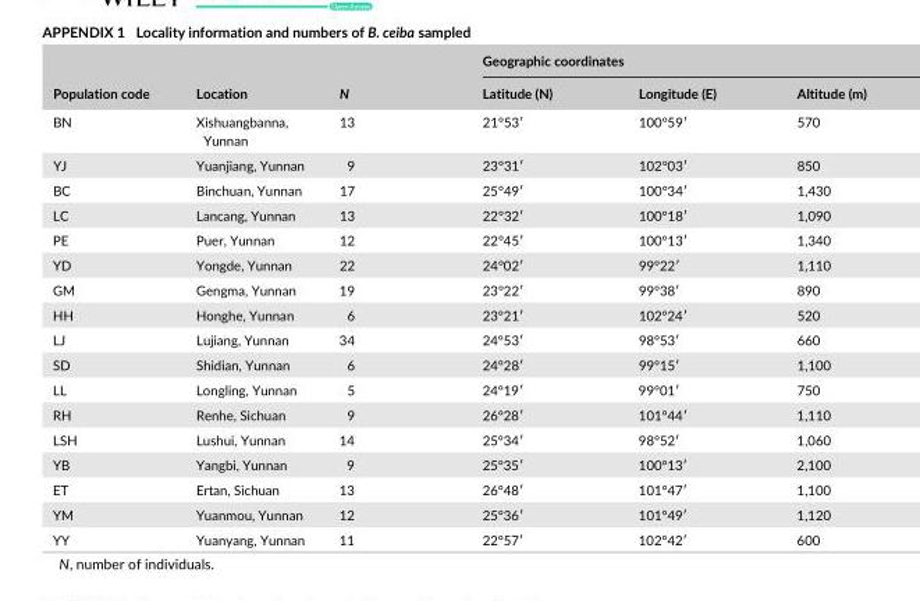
<table><thead><tr><td rowspan="2">Population code</td><td rowspan="2">Location</td><td rowspan="2">N</td><td colspan="3">Geographic coordinates</td></tr><tr><td>Latitude (N)</td><td>Longitude (E)</td><td>Altitude (m)</td></tr></thead><tbody><tr><td>BN</td><td>Xishuangbanna, Yunnan</td><td>13</td><td>21°53′</td><td>100°59′</td><td>570</td></tr><tr><td>YJ</td><td>Yuanjiang, Yunnan</td><td>9</td><td>23°31′</td><td>102°03′</td><td>850</td></tr><tr><td>BC</td><td>Binchuan, Yunnan</td><td>17</td><td>25°49′</td><td>100°34′</td><td>1,430</td></tr><tr><td>LC</td><td>Lancang, Yunnan</td><td>13</td><td>22°32′</td><td>100°18′</td><td>1,090</td></tr><tr><td>PE</td><td>Puer, Yunnan</td><td>12</td><td>22°45′</td><td>100°13′</td><td>1,340</td></tr><tr><td>YD</td><td>Yongde, Yunnan</td><td>22</td><td>24°02′</td><td>99°22′</td><td>1,110</td></tr><tr><td>GM</td><td>Gengma, Yunnan</td><td>19</td><td>23°22′</td><td>99°38′</td><td>890</td></tr><tr><td>HH</td><td>Honghe, Yunnan</td><td>6</td><td>23°21′</td><td>102°24′</td><td>520</td></tr><tr><td>LJ</td><td>Lujiang, Yunnan</td><td>34</td><td>24°53′</td><td>98°53′</td><td>660</td></tr><tr><td>SD</td><td>Shidian, Yunnan</td><td>6</td><td>24°28′</td><td>99°15′</td><td>1,100</td></tr><tr><td>LL</td><td>Longling, Yunnan</td><td>5</td><td>24°19′</td><td>99°01′</td><td>750</td></tr><tr><td>RH</td><td>Renhe, Sichuan</td><td>9</td><td>26°28′</td><td>101°44′</td><td>1,110</td></tr><tr><td>LSH</td><td>Lushui, Yunnan</td><td>14</td><td>25°34′</td><td>98°52′</td><td>1,060</td></tr><tr><td>YB</td><td>Yangbi, Yunnan</td><td>9</td><td>25°35′</td><td>100°13′</td><td>2,100</td></tr><tr><td>ET</td><td>Ertan, Sichuan</td><td>13</td><td>26°48′</td><td>101°47′</td><td>1,100</td></tr><tr><td>YM</td><td>Yuanmou, Yunnan</td><td>12</td><td>25°36′</td><td>101°49′</td><td>1,120</td></tr><tr><td>YY</td><td>Yuanyang, Yunnan</td><td>11</td><td>22°57′</td><td>102°42′</td><td>600</td></tr></tbody></table>